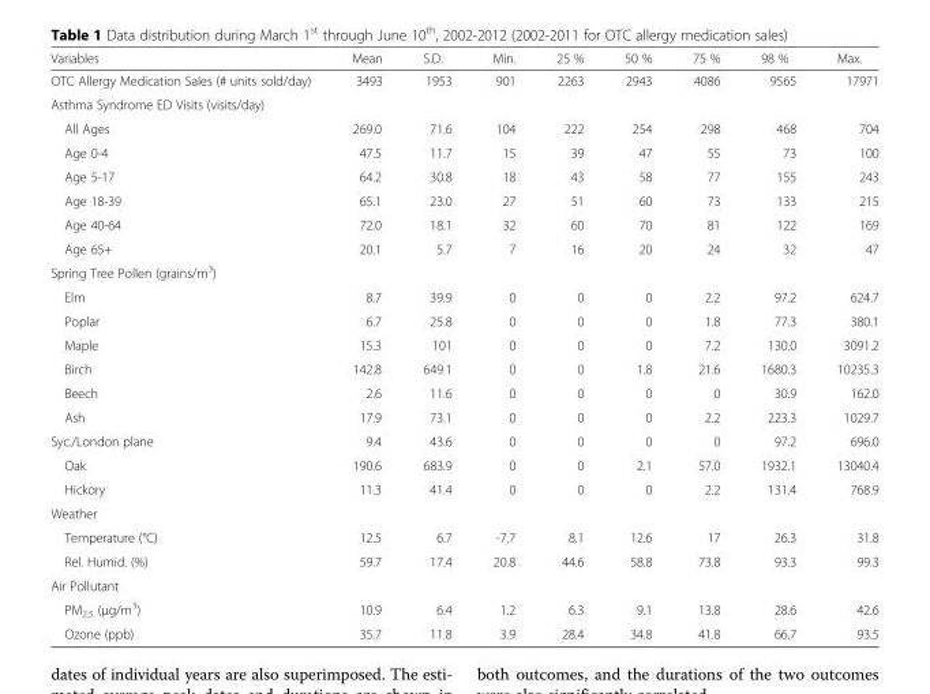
<table><thead><tr><td>Variables</td><td>Mean</td><td>S.D.</td><td>Min.</td><td>25 %</td><td>50 %</td><td>75 %</td><td>98 %</td><td>Max.</td></tr></thead><tbody><tr><td>OTC Allergy Medication Sales (# units sold/day)</td><td>3493</td><td>1953</td><td>901</td><td>2263</td><td>2943</td><td>4086</td><td>9565</td><td>17971</td></tr><tr><td colspan="9">Asthma Syndrome ED Visits (visits/day)</td></tr><tr><td>All Ages</td><td>269.0</td><td>71.6</td><td>104</td><td>222</td><td>254</td><td>298</td><td>468</td><td>704</td></tr><tr><td>Age 0-4</td><td>47.5</td><td>11.7</td><td>15</td><td>39</td><td>47</td><td>55</td><td>73</td><td>100</td></tr><tr><td>Age 5-17</td><td>64.2</td><td>30.8</td><td>18</td><td>43</td><td>58</td><td>77</td><td>155</td><td>243</td></tr><tr><td>Age 18-39</td><td>65.1</td><td>23.0</td><td>27</td><td>51</td><td>60</td><td>73</td><td>133</td><td>215</td></tr><tr><td>Age 40-64</td><td>72.0</td><td>18.1</td><td>32</td><td>60</td><td>70</td><td>81</td><td>122</td><td>169</td></tr><tr><td>Age 65+</td><td>20.1</td><td>5.7</td><td>7</td><td>16</td><td>20</td><td>24</td><td>32</td><td>47</td></tr><tr><td colspan="9">Spring Tree Pollen (grains/m<sup>3</sup>)</td></tr><tr><td>Elm</td><td>8.7</td><td>39.9</td><td>0</td><td>0</td><td>0</td><td>2.2</td><td>97.2</td><td>624.7</td></tr><tr><td>Poplar</td><td>6.7</td><td>25.8</td><td>0</td><td>0</td><td>0</td><td>1.8</td><td>77.3</td><td>380.1</td></tr><tr><td>Maple</td><td>15.3</td><td>101</td><td>0</td><td>0</td><td>0</td><td>7.2</td><td>130.0</td><td>3091.2</td></tr><tr><td>Birch</td><td>142.8</td><td>649.1</td><td>0</td><td>0</td><td>1.8</td><td>21.6</td><td>1680.3</td><td>10235.3</td></tr><tr><td>Beech</td><td>2.6</td><td>11.6</td><td>0</td><td>0</td><td>0</td><td>0</td><td>30.9</td><td>162.0</td></tr><tr><td>Ash</td><td>17.9</td><td>73.1</td><td>0</td><td>0</td><td>0</td><td>2.2</td><td>223.3</td><td>1029.7</td></tr><tr><td>Syc./London plane</td><td>9.4</td><td>43.6</td><td>0</td><td>0</td><td>0</td><td>0</td><td>97.2</td><td>696.0</td></tr><tr><td>Oak</td><td>190.6</td><td>683.9</td><td>0</td><td>0</td><td>2.1</td><td>57.0</td><td>1932.1</td><td>13040.4</td></tr><tr><td>Hickory</td><td>11.3</td><td>41.4</td><td>0</td><td>0</td><td>0</td><td>2.2</td><td>131.4</td><td>768.9</td></tr><tr><td colspan="9">Weather</td></tr><tr><td>Temperature (°C)</td><td>12.5</td><td>6.7</td><td>-7.7</td><td>8.1</td><td>12.6</td><td>17</td><td>26.3</td><td>31.8</td></tr><tr><td>Rel. Humid. (%)</td><td>59.7</td><td>17.4</td><td>20.8</td><td>44.6</td><td>58.8</td><td>73.8</td><td>93.3</td><td>99.3</td></tr><tr><td colspan="9">Air Pollutant</td></tr><tr><td>PM<sub>2.5</sub> (μg/m<sup>3</sup>)</td><td>10.9</td><td>6.4</td><td>1.2</td><td>6.3</td><td>9.1</td><td>13.8</td><td>28.6</td><td>42.6</td></tr><tr><td>Ozone (ppb)</td><td>35.7</td><td>11.8</td><td>3.9</td><td>28.4</td><td>34.8</td><td>41.8</td><td>66.7</td><td>93.5</td></tr></tbody></table>